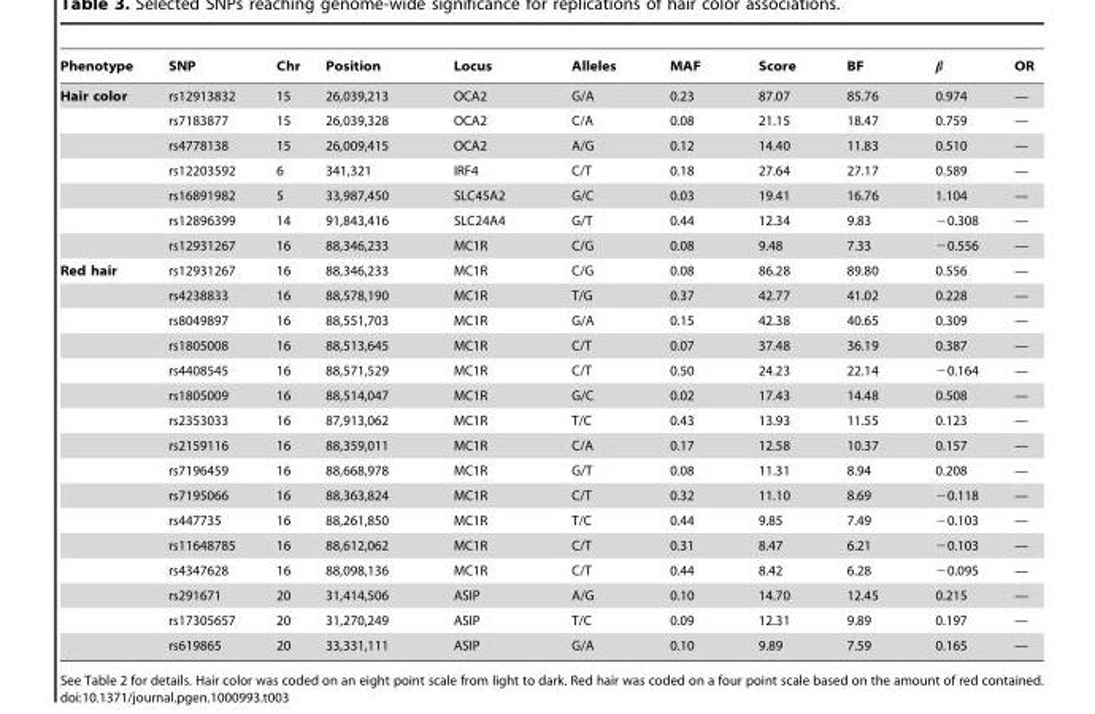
<table><thead><tr><td>Phenotype</td><td>SNP</td><td>Chr</td><td>Position</td><td>Locus</td><td>Alleles</td><td>MAF</td><td>Score</td><td>BF</td><td>b</td><td>OR</td></tr></thead><tbody><tr><td rowspan="7">Hair color</td><td>rs12913832</td><td>15</td><td>26,039,213</td><td>OCA2</td><td>G/A</td><td>0.23</td><td>87.07</td><td>85.76</td><td>0.974</td><td>—</td></tr><tr><td>rs7183877</td><td>15</td><td>26,039,328</td><td>OCA2</td><td>C/A</td><td>0.08</td><td>21.15</td><td>18.47</td><td>0.759</td><td>—</td></tr><tr><td>rs4778138</td><td>15</td><td>26,009,415</td><td>OCA2</td><td>A/G</td><td>0.12</td><td>14.40</td><td>11.83</td><td>0.510</td><td>—</td></tr><tr><td>rs12203592</td><td>6</td><td>341,321</td><td>IRF4</td><td>C/T</td><td>0.18</td><td>27.64</td><td>27.17</td><td>0.589</td><td>—</td></tr><tr><td>rs16891982</td><td>5</td><td>33,987,450</td><td>SLC45A2</td><td>G/C</td><td>0.03</td><td>19.41</td><td>16.76</td><td>1.104</td><td>—</td></tr><tr><td>rs12896399</td><td>14</td><td>91,843,416</td><td>SLC24A4</td><td>G/T</td><td>0.44</td><td>12.34</td><td>9.83</td><td>−0.308</td><td>—</td></tr><tr><td>rs12931267</td><td>16</td><td>88,346,233</td><td>MC1R</td><td>C/G</td><td>0.08</td><td>9.48</td><td>7.33</td><td>−0.556</td><td>—</td></tr><tr><td rowspan="16">Red hair</td><td>rs12931267</td><td>16</td><td>88,346,233</td><td>MC1R</td><td>C/G</td><td>0.08</td><td>86.28</td><td>89.80</td><td>0.556</td><td>—</td></tr><tr><td>rs4238833</td><td>16</td><td>88,578,190</td><td>MC1R</td><td>T/G</td><td>0.37</td><td>42.77</td><td>41.02</td><td>0.228</td><td>—</td></tr><tr><td>rs8049897</td><td>16</td><td>88,551,703</td><td>MC1R</td><td>G/A</td><td>0.15</td><td>42.38</td><td>40.65</td><td>0.309</td><td>—</td></tr><tr><td>rs1805008</td><td>16</td><td>88,513,645</td><td>MC1R</td><td>C/T</td><td>0.07</td><td>37.48</td><td>36.19</td><td>0.387</td><td>—</td></tr><tr><td>rs4408545</td><td>16</td><td>88,571,529</td><td>MC1R</td><td>C/T</td><td>0.50</td><td>24.23</td><td>22.14</td><td>−0.164</td><td>—</td></tr><tr><td>rs1805009</td><td>16</td><td>88,514,047</td><td>MC1R</td><td>G/C</td><td>0.02</td><td>17.43</td><td>14.48</td><td>0.508</td><td>—</td></tr><tr><td>rs2353033</td><td>16</td><td>87,913,062</td><td>MC1R</td><td>T/C</td><td>0.43</td><td>13.93</td><td>11.55</td><td>0.123</td><td>—</td></tr><tr><td>rs2159116</td><td>16</td><td>88,359,011</td><td>MC1R</td><td>C/A</td><td>0.17</td><td>12.58</td><td>10.37</td><td>0.157</td><td>—</td></tr><tr><td>rs7196459</td><td>16</td><td>88,668,978</td><td>MC1R</td><td>G/T</td><td>0.08</td><td>11.31</td><td>8.94</td><td>0.208</td><td>—</td></tr><tr><td>rs7195066</td><td>16</td><td>88,363,824</td><td>MC1R</td><td>C/T</td><td>0.32</td><td>11.10</td><td>8.69</td><td>−0.118</td><td>—</td></tr><tr><td>rs447735</td><td>16</td><td>88,261,850</td><td>MC1R</td><td>T/C</td><td>0.44</td><td>9.85</td><td>7.49</td><td>−0.103</td><td>—</td></tr><tr><td>rs11648785</td><td>16</td><td>88,612,062</td><td>MC1R</td><td>C/T</td><td>0.31</td><td>8.47</td><td>6.21</td><td>−0.103</td><td>—</td></tr><tr><td>rs4347628</td><td>16</td><td>88,098,136</td><td>MC1R</td><td>C/T</td><td>0.44</td><td>8.42</td><td>6.28</td><td>−0.095</td><td>—</td></tr><tr><td>rs291671</td><td>20</td><td>31,414,506</td><td>ASIP</td><td>A/G</td><td>0.10</td><td>14.70</td><td>12.45</td><td>0.215</td><td>—</td></tr><tr><td>rs17305657</td><td>20</td><td>31,270,249</td><td>ASIP</td><td>T/C</td><td>0.09</td><td>12.31</td><td>9.89</td><td>0.197</td><td>—</td></tr><tr><td>rs619865</td><td>20</td><td>33,331,111</td><td>ASIP</td><td>G/A</td><td>0.10</td><td>9.89</td><td>7.59</td><td>0.165</td><td>—</td></tr></tbody></table>